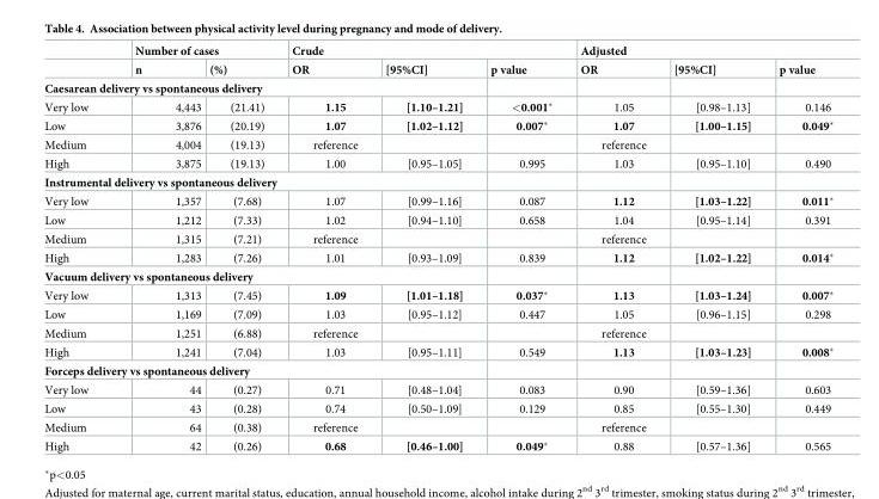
<table><thead><tr><td rowspan="2"></td><td colspan="2">Number of cases</td><td colspan="3">Crude</td><td colspan="3">Adjusted</td></tr><tr><td>n</td><td>(%)</td><td>OR</td><td>[95%CI]</td><td>p value</td><td>OR</td><td>[95%CI]</td><td>p value</td></tr></thead><tbody><tr><td colspan="9">Caesarean delivery vs spontaneous delivery</td></tr><tr><td>Very low</td><td>4,443</td><td>(21.41)</td><td>1.15</td><td>[1.10–1.21]</td><td>&lt;0.001*</td><td>1.05</td><td>[0.98–1.13]</td><td>0.146</td></tr><tr><td>Low</td><td>3,876</td><td>(20.19)</td><td>1.07</td><td>[1.02–1.12]</td><td>0.007*</td><td>1.07</td><td>[1.00–1.15]</td><td>0.049*</td></tr><tr><td>Medium</td><td>4,004</td><td>(19.13)</td><td>reference</td><td></td><td></td><td>reference</td><td></td><td></td></tr><tr><td>High</td><td>3,875</td><td>(19.13)</td><td>1.00</td><td>[0.95–1.05]</td><td>0.995</td><td>1.03</td><td>[0.95–1.10]</td><td>0.490</td></tr><tr><td colspan="9">Instrumental delivery vs spontaneous delivery</td></tr><tr><td>Very low</td><td>1,357</td><td>(7.68)</td><td>1.07</td><td>[0.99–1.16]</td><td>0.087</td><td>1.12</td><td>[1.03–1.22]</td><td>0.011*</td></tr><tr><td>Low</td><td>1,212</td><td>(7.33)</td><td>1.02</td><td>[0.94–1.10]</td><td>0.658</td><td>1.04</td><td>[0.95–1.14]</td><td>0.391</td></tr><tr><td>Medium</td><td>1,315</td><td>(7.21)</td><td>reference</td><td></td><td></td><td>reference</td><td></td><td></td></tr><tr><td>High</td><td>1,283</td><td>(7.26)</td><td>1.01</td><td>[0.93–1.09]</td><td>0.839</td><td>1.12</td><td>[1.02–1.22]</td><td>0.014*</td></tr><tr><td colspan="9">Vacuum delivery vs spontaneous delivery</td></tr><tr><td>Very low</td><td>1,313</td><td>(7.45)</td><td>1.09</td><td>[1.01–1.18]</td><td>0.037*</td><td>1.13</td><td>[1.03–1.24]</td><td>0.007*</td></tr><tr><td>Low</td><td>1,169</td><td>(7.09)</td><td>1.03</td><td>[0.95–1.12]</td><td>0.447</td><td>1.05</td><td>[0.96–1.15]</td><td>0.298</td></tr><tr><td>Medium</td><td>1,251</td><td>(6.88)</td><td>reference</td><td></td><td></td><td>reference</td><td></td><td></td></tr><tr><td>High</td><td>1,241</td><td>(7.04)</td><td>1.03</td><td>[0.95–1.11]</td><td>0.549</td><td>1.13</td><td>[1.03–1.23]</td><td>0.008*</td></tr><tr><td colspan="9">Forceps delivery vs spontaneous delivery</td></tr><tr><td>Very low</td><td>44</td><td>(0.27)</td><td>0.71</td><td>[0.48–1.04]</td><td>0.083</td><td>0.90</td><td>[0.59–1.36]</td><td>0.603</td></tr><tr><td>Low</td><td>43</td><td>(0.28)</td><td>0.74</td><td>[0.50–1.09]</td><td>0.129</td><td>0.85</td><td>[0.55–1.30]</td><td>0.449</td></tr><tr><td>Medium</td><td>64</td><td>(0.38)</td><td>reference</td><td></td><td></td><td>reference</td><td></td><td></td></tr><tr><td>High</td><td>42</td><td>(0.26)</td><td>0.68</td><td>[0.46–1.00]</td><td>0.049*</td><td>0.88</td><td>[0.57–1.36]</td><td>0.565</td></tr></tbody></table>